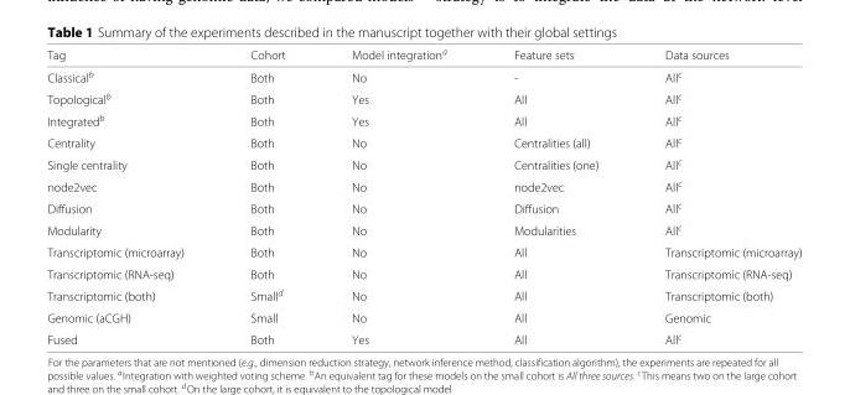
<table><thead><tr><td>Tag</td><td>Cohort</td><td>Model integration<sup>a</sup></td><td>Feature sets</td><td>Data sources</td></tr></thead><tbody><tr><td>Classical<sup>b</sup></td><td>Both</td><td>No</td><td>-</td><td>All<sup>c</sup></td></tr><tr><td>Topological<sup>b</sup></td><td>Both</td><td>Yes</td><td>All</td><td>All<sup>c</sup></td></tr><tr><td>Integrated<sup>b</sup></td><td>Both</td><td>Yes</td><td>All</td><td>All<sup>c</sup></td></tr><tr><td>Centrality</td><td>Both</td><td>No</td><td>Centralities (all)</td><td>All<sup>c</sup></td></tr><tr><td>Single centrality</td><td>Both</td><td>No</td><td>Centralities (one)</td><td>All<sup>c</sup></td></tr><tr><td>node2vec</td><td>Both</td><td>No</td><td>node2vec</td><td>All<sup>c</sup></td></tr><tr><td>Diffusion</td><td>Both</td><td>No</td><td>Diffusion</td><td>All<sup>c</sup></td></tr><tr><td>Modularity</td><td>Both</td><td>No</td><td>Modularities</td><td>All<sup>c</sup></td></tr><tr><td>Transcriptomic (microarray)</td><td>Both</td><td>No</td><td>All</td><td>Transcriptomic (microarray)</td></tr><tr><td>Transcriptomic (RNA-seq)</td><td>Both</td><td>No</td><td>All</td><td>Transcriptomic (RNA-seq)</td></tr><tr><td>Transcriptomic (both)</td><td>Small<sup>d</sup></td><td>No</td><td>All</td><td>Transcriptomic (both)</td></tr><tr><td>Genomic (aCGH)</td><td>Small</td><td>No</td><td>All</td><td>Genomic</td></tr><tr><td>Fused</td><td>Both</td><td>Yes</td><td>All</td><td>All<sup>c</sup></td></tr></tbody></table>